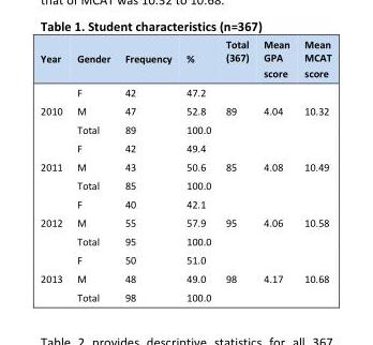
<table><thead><tr><td>Year</td><td>Gender</td><td>Frequency</td><td>%</td><td>Total (367)</td><td>Mean GPA score</td><td>Mean MCAT score</td></tr></thead><tbody><tr><td rowspan="3">2010</td><td>F</td><td>42</td><td>47.2</td><td rowspan="3">89</td><td rowspan="3">4.04</td><td rowspan="3">10.32</td></tr><tr><td>M</td><td>47</td><td>52.8</td></tr><tr><td>Total</td><td>89</td><td>100.0</td></tr><tr><td rowspan="3">2011</td><td>F</td><td>42</td><td>49.4</td><td rowspan="3">85</td><td rowspan="3">4.08</td><td rowspan="3">10.49</td></tr><tr><td>M</td><td>43</td><td>50.6</td></tr><tr><td>Total</td><td>85</td><td>100.0</td></tr><tr><td rowspan="3">2012</td><td>F</td><td>40</td><td>42.1</td><td rowspan="3">95</td><td rowspan="3">4.06</td><td rowspan="3">10.58</td></tr><tr><td>M</td><td>55</td><td>57.9</td></tr><tr><td>Total</td><td>95</td><td>100.0</td></tr><tr><td rowspan="3">2013</td><td>F</td><td>50</td><td>51.0</td><td rowspan="3">98</td><td rowspan="3">4.17</td><td rowspan="3">10.68</td></tr><tr><td>M</td><td>48</td><td>49.0</td></tr><tr><td>Total</td><td>98</td><td>100.0</td></tr></tbody></table>